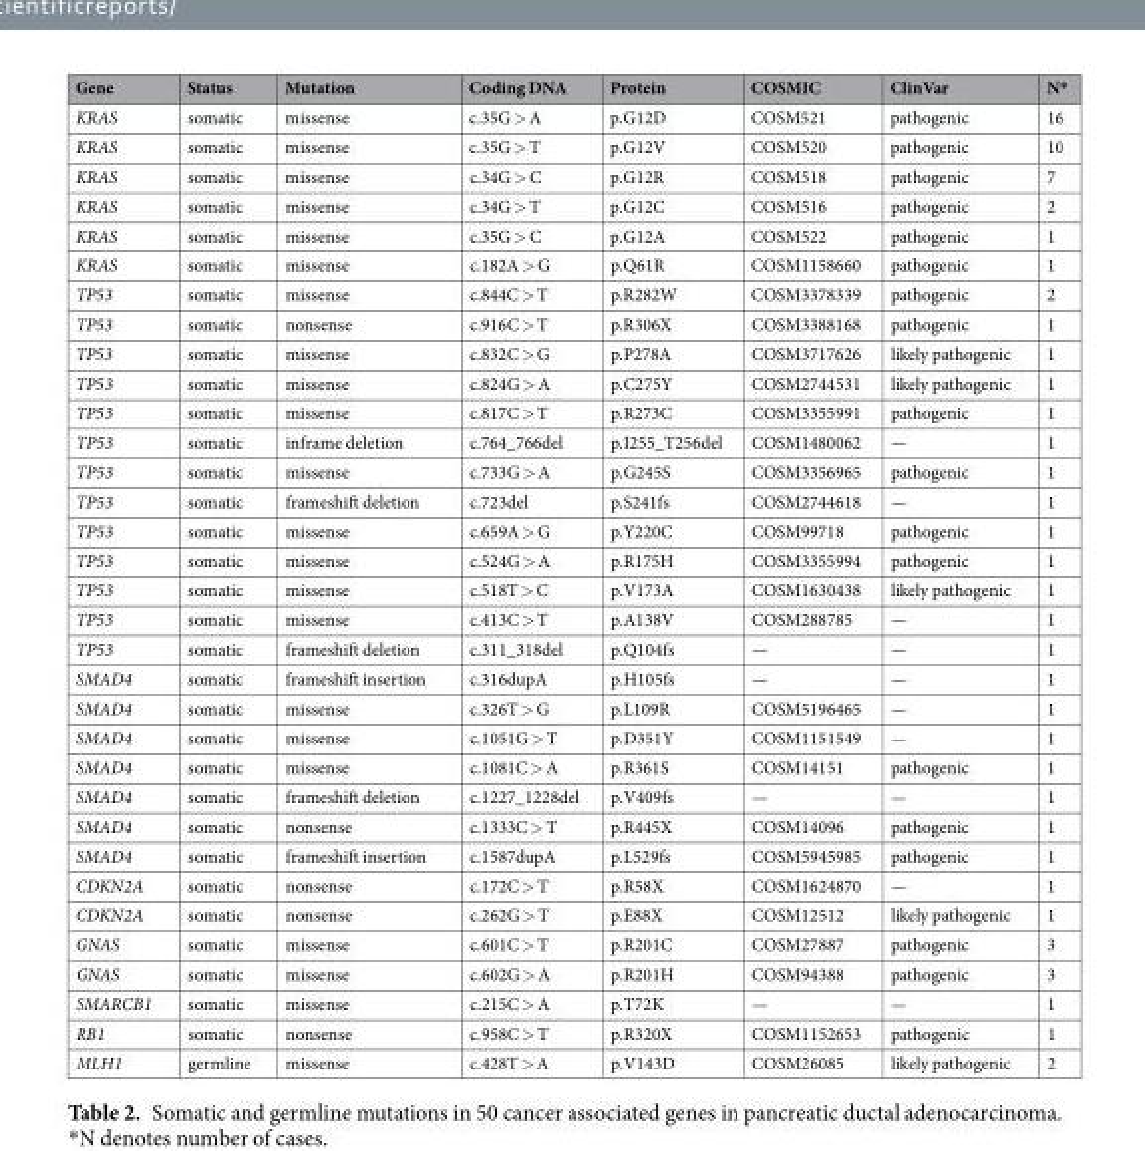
<table><thead><tr><td>Gene</td><td>Status</td><td>Mutation</td><td>Coding DNA</td><td>Protein</td><td>COSMIC</td><td>ClinVar</td><td>N*</td></tr></thead><tbody><tr><td>KRAS</td><td>somatic</td><td>missense</td><td>c.35G &gt; A</td><td>p.G12D</td><td>COSM521</td><td>pathogenic</td><td>16</td></tr><tr><td>KRAS</td><td>somatic</td><td>missense</td><td>c.35G &gt; T</td><td>p.G12V</td><td>COSM520</td><td>pathogenic</td><td>10</td></tr><tr><td>KRAS</td><td>somatic</td><td>missense</td><td>c.34G &gt; C</td><td>p.G12R</td><td>COSM518</td><td>pathogenic</td><td>7</td></tr><tr><td>KRAS</td><td>somatic</td><td>missense</td><td>c.34G &gt; T</td><td>p.G12C</td><td>COSM516</td><td>pathogenic</td><td>2</td></tr><tr><td>KRAS</td><td>somatic</td><td>missense</td><td>c.35G &gt; C</td><td>p.G12A</td><td>COSM522</td><td>pathogenic</td><td>1</td></tr><tr><td>KRAS</td><td>somatic</td><td>missense</td><td>c.182A &gt; G</td><td>p.Q61R</td><td>COSM1158660</td><td>pathogenic</td><td>1</td></tr><tr><td>TP53</td><td>somatic</td><td>missense</td><td>c.844C &gt; T</td><td>p.R282W</td><td>COSM3378339</td><td>pathogenic</td><td>2</td></tr><tr><td>TP53</td><td>somatic</td><td>nonsense</td><td>c.916C &gt; T</td><td>p.R306X</td><td>COSM3388168</td><td>pathogenic</td><td>1</td></tr><tr><td>TP53</td><td>somatic</td><td>missense</td><td>c.832C &gt; G</td><td>p.P278A</td><td>COSM3717626</td><td>likely pathogenic</td><td>1</td></tr><tr><td>TP53</td><td>somatic</td><td>missense</td><td>c.824G &gt; A</td><td>p.C275Y</td><td>COSM2744531</td><td>likely pathogenic</td><td>1</td></tr><tr><td>TP53</td><td>somatic</td><td>missense</td><td>c.817C &gt; T</td><td>p.R273C</td><td>COSM3355991</td><td>pathogenic</td><td>1</td></tr><tr><td>TP53</td><td>somatic</td><td>inframe deletion</td><td>c.764_766del</td><td>p.I255_T256del</td><td>COSM1480062</td><td>—</td><td>1</td></tr><tr><td>TP53</td><td>somatic</td><td>missense</td><td>c.733G &gt; A</td><td>p.G245S</td><td>COSM3356965</td><td>pathogenic</td><td>1</td></tr><tr><td>TP53</td><td>somatic</td><td>frameshift deletion</td><td>c.723del</td><td>p.S241fs</td><td>COSM2744618</td><td>—</td><td>1</td></tr><tr><td>TP53</td><td>somatic</td><td>missense</td><td>c.659A &gt; G</td><td>p.Y220C</td><td>COSM99718</td><td>pathogenic</td><td>1</td></tr><tr><td>TP53</td><td>somatic</td><td>missense</td><td>c.524G &gt; A</td><td>p.R175H</td><td>COSM3355994</td><td>pathogenic</td><td>1</td></tr><tr><td>TP53</td><td>somatic</td><td>missense</td><td>c.518T &gt; C</td><td>p.V173A</td><td>COSM1630438</td><td>likely pathogenic</td><td>1</td></tr><tr><td>TP53</td><td>somatic</td><td>missense</td><td>c.413C &gt; T</td><td>p.A138V</td><td>COSM288785</td><td>—</td><td>1</td></tr><tr><td>TP53</td><td>somatic</td><td>frameshift deletion</td><td>c.311_318del</td><td>p.Q104fs</td><td>—</td><td>—</td><td>1</td></tr><tr><td>SMAD4</td><td>somatic</td><td>frameshift insertion</td><td>c.316dupA</td><td>p.H105fs</td><td>—</td><td>—</td><td>1</td></tr><tr><td>SMAD4</td><td>somatic</td><td>missense</td><td>c.326T &gt; G</td><td>p.L109R</td><td>COSM5196465</td><td>—</td><td>1</td></tr><tr><td>SMAD4</td><td>somatic</td><td>missense</td><td>c.1051G &gt; T</td><td>p.D351Y</td><td>COSM1151549</td><td>—</td><td>1</td></tr><tr><td>SMAD4</td><td>somatic</td><td>missense</td><td>c.1081C &gt; A</td><td>p.R361S</td><td>COSM14151</td><td>pathogenic</td><td>1</td></tr><tr><td>SMAD4</td><td>somatic</td><td>frameshift deletion</td><td>c.1227_1228del</td><td>p.V409fs</td><td>—</td><td>—</td><td>1</td></tr><tr><td>SMAD4</td><td>somatic</td><td>nonsense</td><td>c.1333C &gt; T</td><td>p.R445X</td><td>COSM14096</td><td>pathogenic</td><td>1</td></tr><tr><td>SMAD4</td><td>somatic</td><td>frameshift insertion</td><td>c.1587dupA</td><td>p.L529fs</td><td>COSM5945985</td><td>pathogenic</td><td>1</td></tr><tr><td>CDKN2A</td><td>somatic</td><td>nonsense</td><td>c.172C &gt; T</td><td>p.R58X</td><td>COSM1624870</td><td>—</td><td>1</td></tr><tr><td>CDKN2A</td><td>somatic</td><td>nonsense</td><td>c.262G &gt; T</td><td>p.E88X</td><td>COSM12512</td><td>likely pathogenic</td><td>1</td></tr><tr><td>GNAS</td><td>somatic</td><td>missense</td><td>c.601C &gt; T</td><td>p.R201C</td><td>COSM27887</td><td>pathogenic</td><td>3</td></tr><tr><td>GNAS</td><td>somatic</td><td>missense</td><td>c.602G &gt; A</td><td>p.R201H</td><td>COSM94388</td><td>pathogenic</td><td>3</td></tr><tr><td>SMARCB1</td><td>somatic</td><td>missense</td><td>c.215C &gt; A</td><td>p.T72K</td><td>—</td><td>—</td><td>1</td></tr><tr><td>RB1</td><td>somatic</td><td>nonsense</td><td>c.958C &gt; T</td><td>p.R320X</td><td>COSM1152653</td><td>pathogenic</td><td>1</td></tr><tr><td>MLH1</td><td>germline</td><td>missense</td><td>c.428T &gt; A</td><td>p.V143D</td><td>COSM26085</td><td>likely pathogenic</td><td>2</td></tr></tbody></table>